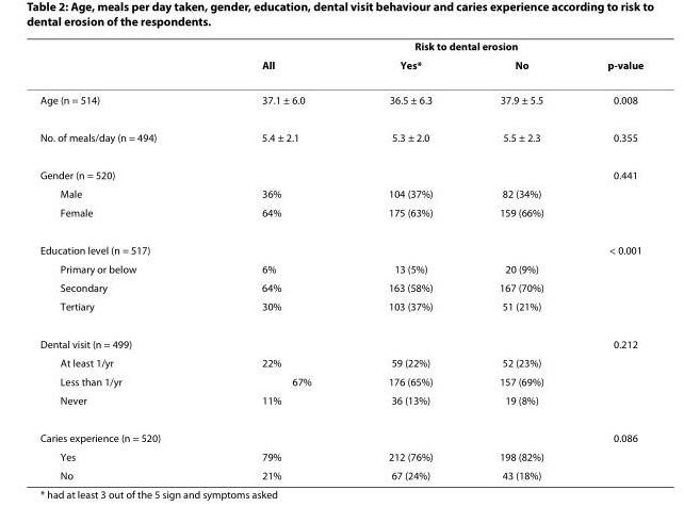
<table><thead><tr><td rowspan="2"></td><td rowspan="2">All</td><td colspan="2">Risk to dental erosion</td><td rowspan="2">p-value</td></tr><tr><td>Yes*</td><td>No</td></tr></thead><tbody><tr><td>Age (n = 514)</td><td>37.1 ± 6.0</td><td>36.5 ± 6.3</td><td>37.9 ± 5.5</td><td>0.008</td></tr><tr><td>No. of meals/day (n = 494)</td><td>5.4 ± 2.1</td><td>5.3 ± 2.0</td><td>5.5 ± 2.3</td><td>0.355</td></tr><tr><td>Gender (n = 520)</td><td></td><td></td><td></td><td>0.441</td></tr><tr><td>Male</td><td>36%</td><td>104 (37%)</td><td>82 (34%)</td><td></td></tr><tr><td>Female</td><td>64%</td><td>175 (63%)</td><td>159 (66%)</td><td></td></tr><tr><td>Education level (n = 517)</td><td></td><td></td><td></td><td>&lt; 0.001</td></tr><tr><td>Primary or below</td><td>6%</td><td>13 (5%)</td><td>20 (9%)</td><td></td></tr><tr><td>Secondary</td><td>64%</td><td>163 (58%)</td><td>167 (70%)</td><td></td></tr><tr><td>Tertiary</td><td>30%</td><td>103 (37%)</td><td>51 (21%)</td><td></td></tr><tr><td>Dental visit (n = 499)</td><td></td><td></td><td></td><td>0.212</td></tr><tr><td>At least 1/yr</td><td>22%</td><td>59 (22%)</td><td>52 (23%)</td><td></td></tr><tr><td>Less than 1/yr</td><td>67%</td><td>176 (65%)</td><td>157 (69%)</td><td></td></tr><tr><td>Never</td><td>11%</td><td>36 (13%)</td><td>19 (8%)</td><td></td></tr><tr><td>Caries experience (n = 520)</td><td></td><td></td><td></td><td>0.086</td></tr><tr><td>Yes</td><td>79%</td><td>212 (76%)</td><td>198 (82%)</td><td></td></tr><tr><td>No</td><td>21%</td><td>67 (24%)</td><td>43 (18%)</td><td></td></tr></tbody></table>